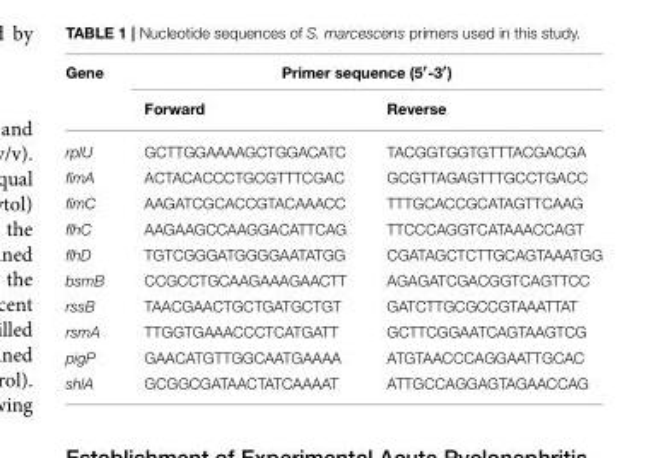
<table><thead><tr><td rowspan="2">Gene</td><td colspan="2">Primer sequence (5′-3′)</td></tr><tr><td>Forward</td><td>Reverse</td></tr></thead><tbody><tr><td>rplU</td><td>GCTTGGAAAAGCTGGACATC</td><td>TACGGTGGTGTTTACGACGA</td></tr><tr><td>fimA</td><td>ACTACACCCTGCGTTTCGAC</td><td>GCGTTAGAGTTTGCCTGACC</td></tr><tr><td>fimC</td><td>AAGATCGCACCGTACAAACC</td><td>TTTGCACCGCATAGTTCAAG</td></tr><tr><td>flhC</td><td>AAGAAGCCAAGGACATTCAG</td><td>TTCCCAGGTCATAAACCAGT</td></tr><tr><td>flhD</td><td>TGTCGGGATGGGGAATATGG</td><td>CGATAGCTCTTGCAGTAAATGG</td></tr><tr><td>bsmB</td><td>CCGCCTGCAAGAAAGAACTT</td><td>AGAGATCGACGGTCAGTTCC</td></tr><tr><td>rssB</td><td>TAACGAACTGCTGATGCTGT</td><td>GATCTTGCGCCGTAAATTAT</td></tr><tr><td>rsmA</td><td>TTGGTGAAACCCTCATGATT</td><td>GCTTCGGAATCAGTAAGTCG</td></tr><tr><td>pigP</td><td>GAACATGTTGGCAATGAAAA</td><td>ATGTAACCCAGGAATTGCAC</td></tr><tr><td>shlA</td><td>GCGGCGATAACTATCAAAAT</td><td>ATTGCCAGGAGTAGAACCAG</td></tr></tbody></table>